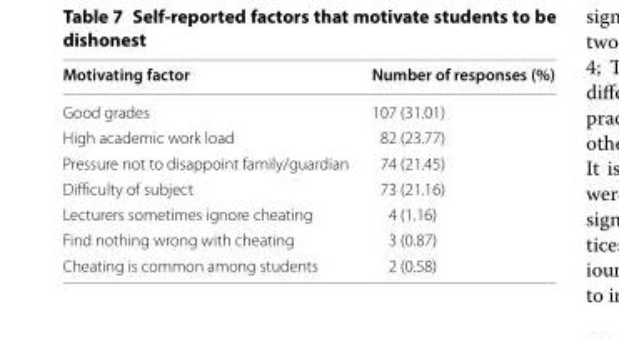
<table><thead><tr><td>Motivating factor</td><td>Number of responses (%)</td></tr></thead><tbody><tr><td>Good grades</td><td>107 (31.01)</td></tr><tr><td>High academic work load</td><td>82 (23.77)</td></tr><tr><td>Pressure not to disappoint family/guardian</td><td>74 (21.45)</td></tr><tr><td>Difficulty of subject</td><td>73 (21.16)</td></tr><tr><td>Lecturers sometimes ignore cheating</td><td>4 (1.16)</td></tr><tr><td>Find nothing wrong with cheating</td><td>3 (0.87)</td></tr><tr><td>Cheating is common among students</td><td>2 (0.58)</td></tr></tbody></table>